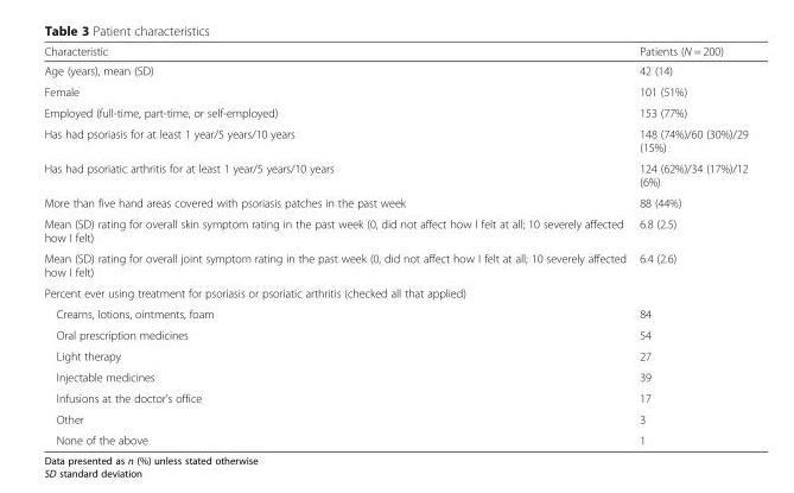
<table><thead><tr><td>Characteristic</td><td>Patients (N = 200)</td></tr></thead><tbody><tr><td>Age (years), mean (SD)</td><td>42 (14)</td></tr><tr><td>Female</td><td>101 (51%)</td></tr><tr><td>Employed (full-time, part-time, or self-employed)</td><td>153 (77%)</td></tr><tr><td>Has had psoriasis for at least 1 year/5 years/10 years</td><td>148 (74%)/60 (30%)/29 (15%)</td></tr><tr><td>Has had psoriatic arthritis for at least 1 year/5 years/10 years</td><td>124 (62%)/34 (17%)/12 (6%)</td></tr><tr><td>More than five hand areas covered with psoriasis patches in the past week</td><td>88 (44%)</td></tr><tr><td>Mean (SD) rating for overall skin symptom rating in the past week (0, did not affect how I felt at all; 10 severely affected how I felt)</td><td>6.8 (2.5)</td></tr><tr><td>Mean (SD) rating for overall joint symptom rating in the past week (0, did not affect how I felt at all; 10 severely affected how I felt)</td><td>6.4 (2.6)</td></tr><tr><td colspan="2">Percent ever using treatment for psoriasis or psoriatic arthritis (checked all that applied)</td></tr><tr><td>Creams, lotions, ointments, foam</td><td>84</td></tr><tr><td>Oral prescription medicines</td><td>54</td></tr><tr><td>Light therapy</td><td>27</td></tr><tr><td>Injectable medicines</td><td>39</td></tr><tr><td>Infusions at the doctor’s office</td><td>17</td></tr><tr><td>Other</td><td>3</td></tr><tr><td>None of the above</td><td>1</td></tr></tbody></table>